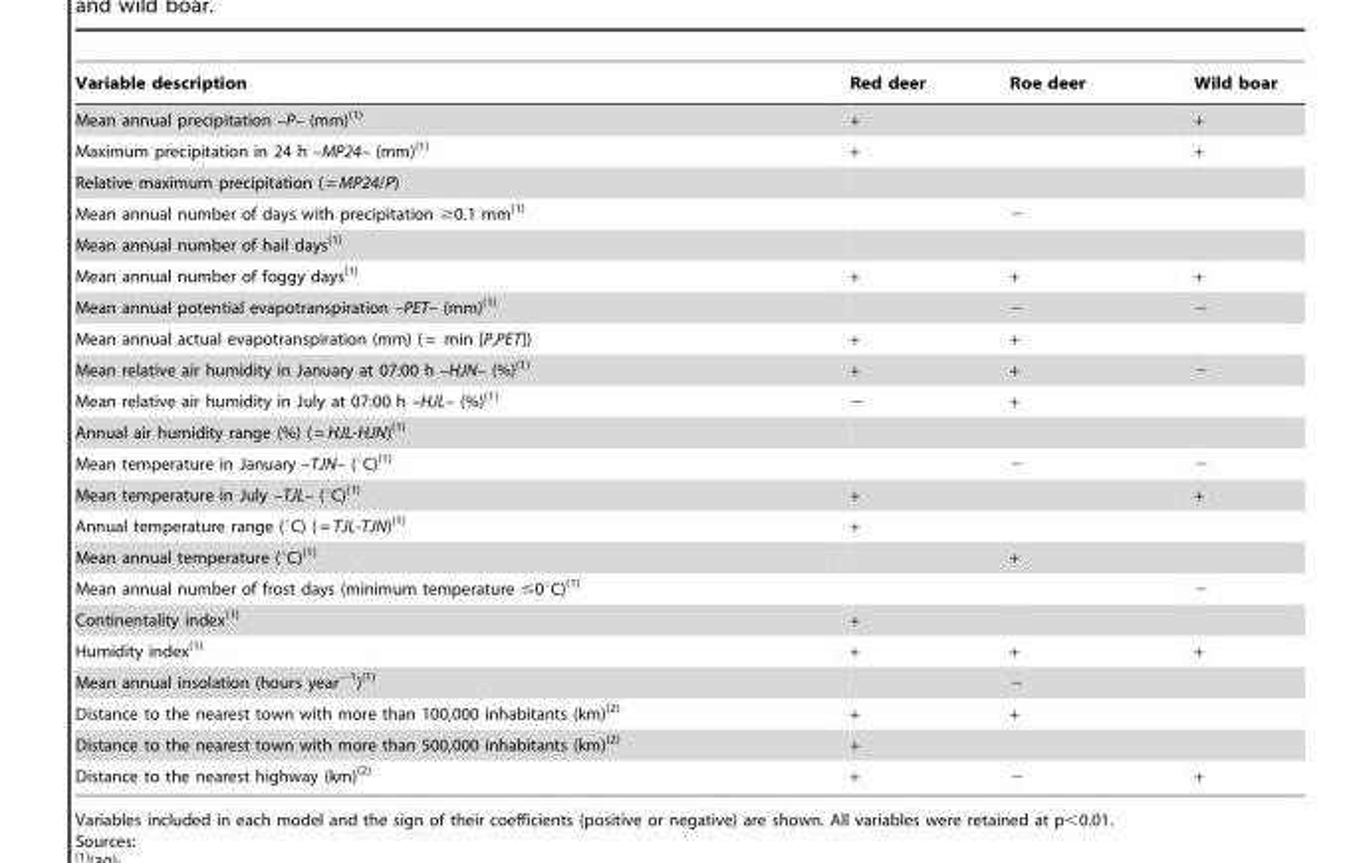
<table><thead><tr><td>Variable description</td><td>Red deer</td><td>Roe deer</td><td>Wild boar</td></tr></thead><tbody><tr><td>Mean annual precipitation –P– (mm)(1)</td><td>+</td><td></td><td>+</td></tr><tr><td>Maximum precipitation in 24 h –MP24– (mm)(1)</td><td>+</td><td></td><td>+</td></tr><tr><td colspan="4">Relative maximum precipitation ( = MP24/P)</td></tr><tr><td>Mean annual number of days with precipitation ≥0.1 mm(1)</td><td></td><td>−</td><td></td></tr><tr><td colspan="4">Mean annual number of hail days(1)</td></tr><tr><td>Mean annual number of foggy days(1)</td><td>+</td><td>+</td><td>+</td></tr><tr><td>Mean annual potential evapotranspiration –PET– (mm)(1)</td><td></td><td>−</td><td>−</td></tr><tr><td>Mean annual actual evapotranspiration (mm) ( = min [P,PET])</td><td>+</td><td>+</td><td></td></tr><tr><td>Mean relative air humidity in January at 07:00 h –HJN– (%)(1)</td><td>+</td><td>+</td><td>−</td></tr><tr><td>Mean relative air humidity in July at 07:00 h –HJL– (%)(1)</td><td>−</td><td>+</td><td></td></tr><tr><td colspan="4">Annual air humidity range (%) ( = HJL-HJN)(1)</td></tr><tr><td>Mean temperature in January –TJN– (°C)(1)</td><td></td><td>−</td><td>−</td></tr><tr><td>Mean temperature in July –TJL– (°C)(1)</td><td>+</td><td></td><td>+</td></tr><tr><td>Annual temperature range (°C) ( = TJL-TJN)(1)</td><td>+</td><td></td><td></td></tr><tr><td>Mean annual temperature (°C)(1)</td><td></td><td>+</td><td></td></tr><tr><td>Mean annual number of frost days (minimum temperature ≤0°C)(1)</td><td></td><td></td><td>−</td></tr><tr><td>Continentality index(1)</td><td>+</td><td></td><td></td></tr><tr><td>Humidity index(1)</td><td>+</td><td>+</td><td>+</td></tr><tr><td>Mean annual insolation (hours year<sup>−1</sup>)(1)</td><td></td><td>−</td><td></td></tr><tr><td>Distance to the nearest town with more than 100,000 inhabitants (km)(2)</td><td>+</td><td>+</td><td></td></tr><tr><td>Distance to the nearest town with more than 500,000 inhabitants (km)(2)</td><td>+</td><td></td><td></td></tr><tr><td>Distance to the nearest highway (km)(2)</td><td>+</td><td>−</td><td>+</td></tr></tbody></table>